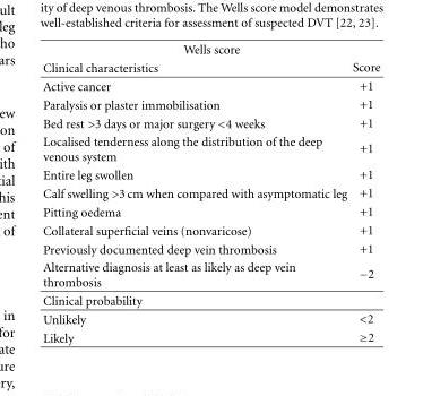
<table><thead><tr><td colspan="2">Wells score</td></tr><tr><td>Clinical characteristics</td><td>Score</td></tr></thead><tbody><tr><td>Active cancer</td><td>+1</td></tr><tr><td>Paralysis or plaster immobilisation</td><td>+1</td></tr><tr><td>Bed rest &gt;3 days or major surgery &lt;4 weeks</td><td>+1</td></tr><tr><td>Localised tenderness along the distribution of the deep venous system</td><td>+1</td></tr><tr><td>Entire leg swollen</td><td>+1</td></tr><tr><td>Calf swelling &gt;3 cm when compared with asymptomatic leg</td><td>+1</td></tr><tr><td>Pitting oedema</td><td>+1</td></tr><tr><td>Collateral superficial veins (nonvaricose)</td><td>+1</td></tr><tr><td>Previously documented deep vein thrombosis</td><td>+1</td></tr><tr><td>Alternative diagnosis at least as likely as deep vein thrombosis</td><td>−2</td></tr><tr><td colspan="2">Clinical probability</td></tr><tr><td>Unlikely</td><td>&lt;2</td></tr><tr><td>Likely</td><td>≥2</td></tr></tbody></table>